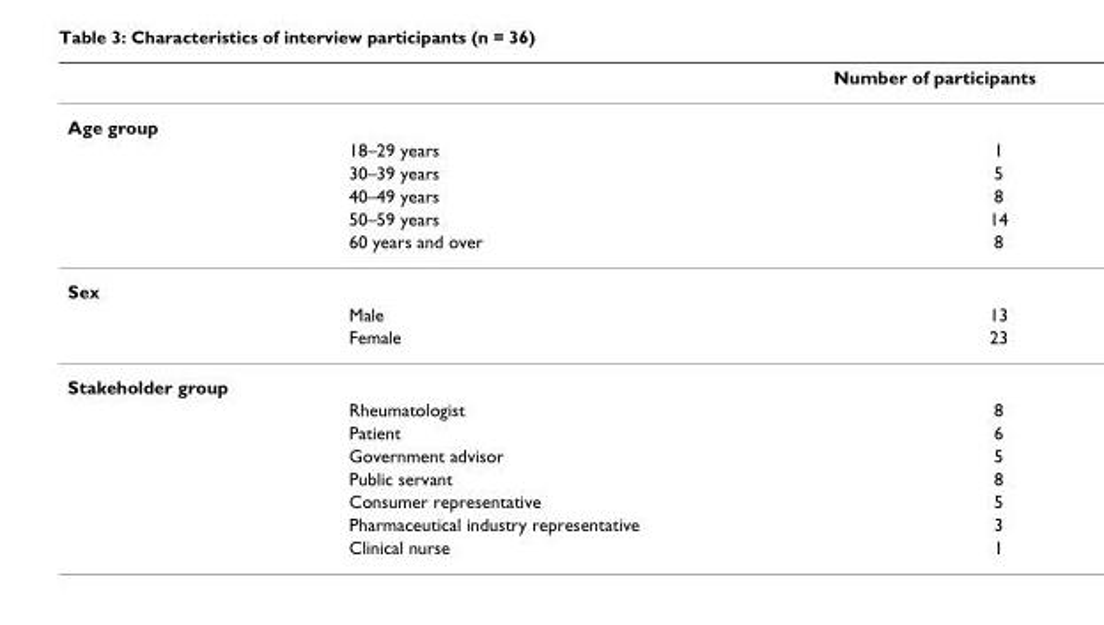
<table><thead><tr><td></td><td></td><td>Number of participants</td></tr></thead><tbody><tr><td colspan="3">Age group</td></tr><tr><td></td><td>18–29 years</td><td>1</td></tr><tr><td></td><td>30–39 years</td><td>5</td></tr><tr><td></td><td>40–49 years</td><td>8</td></tr><tr><td></td><td>50–59 years</td><td>14</td></tr><tr><td></td><td>60 years and over</td><td>8</td></tr><tr><td colspan="3">Sex</td></tr><tr><td></td><td>Male</td><td>13</td></tr><tr><td></td><td>Female</td><td>23</td></tr><tr><td colspan="3">Stakeholder group</td></tr><tr><td></td><td>Rheumatologist</td><td>8</td></tr><tr><td></td><td>Patient</td><td>6</td></tr><tr><td></td><td>Government advisor</td><td>5</td></tr><tr><td></td><td>Public servant</td><td>8</td></tr><tr><td></td><td>Consumer representative</td><td>5</td></tr><tr><td></td><td>Pharmaceutical industry representative</td><td>3</td></tr><tr><td></td><td>Clinical nurse</td><td>1</td></tr></tbody></table>